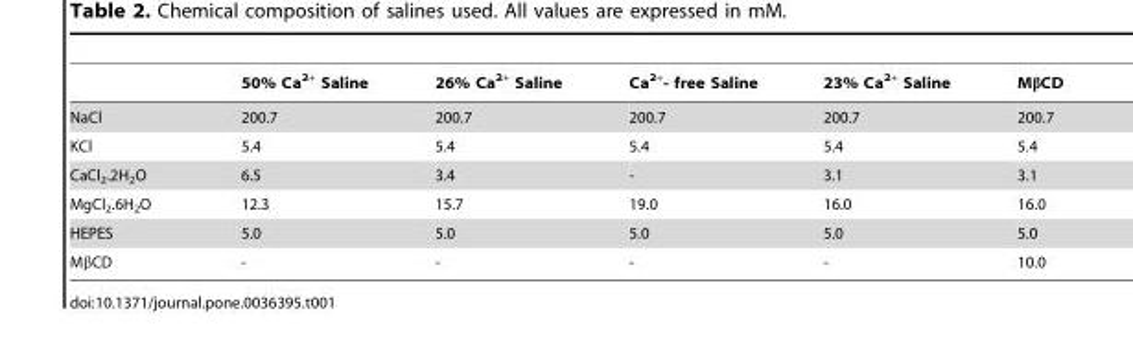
<table><thead><tr><td></td><td>50% Ca<sup>2+</sup> Saline</td><td>26% Ca<sup>2+</sup> Saline</td><td>Ca<sup>2+</sup>- free Saline</td><td>23% Ca<sup>2+</sup> Saline</td><td>MβCD</td></tr></thead><tbody><tr><td>NaCl</td><td>200.7</td><td>200.7</td><td>200.7</td><td>200.7</td><td>200.7</td></tr><tr><td>KCl</td><td>5.4</td><td>5.4</td><td>5.4</td><td>5.4</td><td>5.4</td></tr><tr><td>CaCl<sub>2</sub>.2H<sub>2</sub>O</td><td>6.5</td><td>3.4</td><td>-</td><td>3.1</td><td>3.1</td></tr><tr><td>MgCl<sub>2</sub>.6H<sub>2</sub>O</td><td>12.3</td><td>15.7</td><td>19.0</td><td>16.0</td><td>16.0</td></tr><tr><td>HEPES</td><td>5.0</td><td>5.0</td><td>5.0</td><td>5.0</td><td>5.0</td></tr><tr><td>MβCD</td><td>-</td><td>-</td><td>-</td><td>-</td><td>10.0</td></tr></tbody></table>